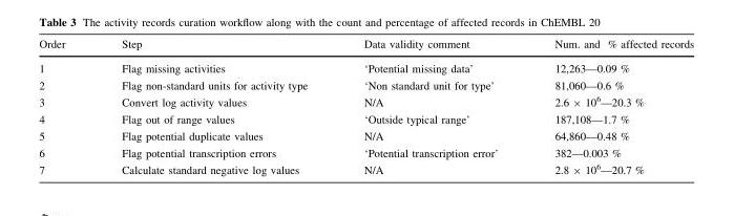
<table><thead><tr><td>Order</td><td>Step</td><td>Data validity comment</td><td>Num. and % affected records</td></tr></thead><tbody><tr><td>1</td><td>Flag missing activities</td><td>‘Potential missing data’</td><td>12,263—0.09 %</td></tr><tr><td>2</td><td>Flag non-standard units for activity type</td><td>‘Non standard unit for type’</td><td>81,060—0.6 %</td></tr><tr><td>3</td><td>Convert log activity values</td><td>N/A</td><td>2.6 × 10<sup>6</sup>—20.3 %</td></tr><tr><td>4</td><td>Flag out of range values</td><td>‘Outside typical range’</td><td>187,108—1.7 %</td></tr><tr><td>5</td><td>Flag potential duplicate values</td><td>N/A</td><td>64,860—0.48 %</td></tr><tr><td>6</td><td>Flag potential transcription errors</td><td>‘Potential transcription error’</td><td>382—0.003 %</td></tr><tr><td>7</td><td>Calculate standard negative log values</td><td>N/A</td><td>2.8 × 10<sup>6</sup>—20.7 %</td></tr></tbody></table>